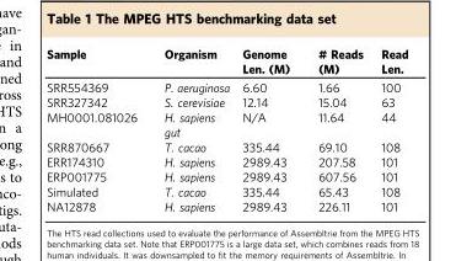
<table><thead><tr><td>Sample</td><td>Organism</td><td>Genome Len. (M)</td><td># Reads (M)</td><td>Read Len.</td></tr></thead><tbody><tr><td>SRR554369</td><td>P. aeruginosa</td><td>6.60</td><td>1.66</td><td>100</td></tr><tr><td>SRR327342</td><td>S. cerevisiae</td><td>12.14</td><td>15.04</td><td>63</td></tr><tr><td>MH0001.081026</td><td>H. sapiens gut</td><td>N/A</td><td>11.64</td><td>44</td></tr><tr><td>SRR870667</td><td>T. cacao</td><td>335.44</td><td>69.10</td><td>108</td></tr><tr><td>ERR174310</td><td>H. sapiens</td><td>2989.43</td><td>207.58</td><td>101</td></tr><tr><td>ERP001775</td><td>H. sapiens</td><td>2989.43</td><td>607.56</td><td>101</td></tr><tr><td>Simulated</td><td>T. cacao</td><td>335.44</td><td>65.43</td><td>108</td></tr><tr><td>NA12878</td><td>H. sapiens</td><td>2989.43</td><td>226.11</td><td>101</td></tr></tbody></table>